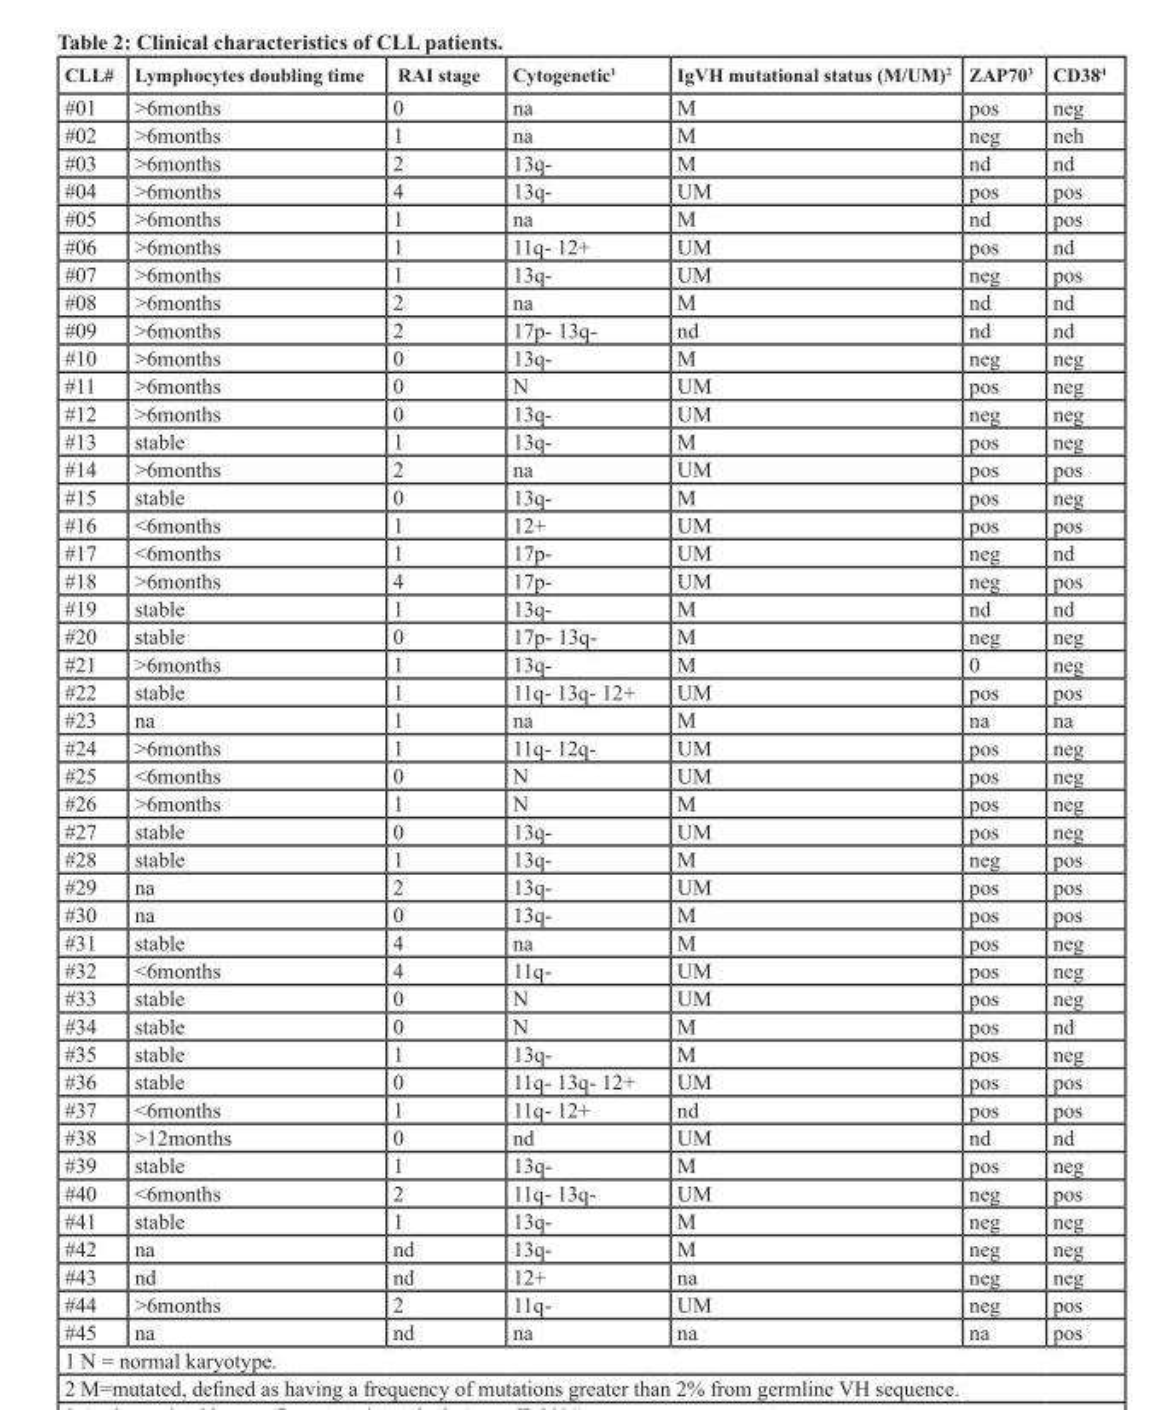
<table><thead><tr><td>CLL#</td><td>Lymphocytes doubling time</td><td>RAI stage</td><td>Cytogenetic<sup>1</sup></td><td>IgVH mutational status (M/UM)<sup>2</sup></td><td>ZAP70<sup>3</sup></td><td>CD38<sup>4</sup></td></tr></thead><tbody><tr><td>#01</td><td>&gt;6months</td><td>0</td><td>na</td><td>M</td><td>pos</td><td>neg</td></tr><tr><td>#02</td><td>&gt;6months</td><td>1</td><td>na</td><td>M</td><td>neg</td><td>neh</td></tr><tr><td>#03</td><td>&gt;6months</td><td>2</td><td>13q-</td><td>M</td><td>nd</td><td>nd</td></tr><tr><td>#04</td><td>&gt;6months</td><td>4</td><td>13q-</td><td>UM</td><td>pos</td><td>pos</td></tr><tr><td>#05</td><td>&gt;6months</td><td>1</td><td>na</td><td>M</td><td>nd</td><td>pos</td></tr><tr><td>#06</td><td>&gt;6months</td><td>1</td><td>11q- 12+</td><td>UM</td><td>pos</td><td>nd</td></tr><tr><td>#07</td><td>&gt;6months</td><td>1</td><td>13q-</td><td>UM</td><td>neg</td><td>pos</td></tr><tr><td>#08</td><td>&gt;6months</td><td>2</td><td>na</td><td>M</td><td>nd</td><td>nd</td></tr><tr><td>#09</td><td>&gt;6months</td><td>2</td><td>17p- 13q-</td><td>nd</td><td>nd</td><td>nd</td></tr><tr><td>#10</td><td>&gt;6months</td><td>0</td><td>13q-</td><td>M</td><td>neg</td><td>neg</td></tr><tr><td>#11</td><td>&gt;6months</td><td>0</td><td>N</td><td>UM</td><td>pos</td><td>neg</td></tr><tr><td>#12</td><td>&gt;6months</td><td>0</td><td>13q-</td><td>UM</td><td>neg</td><td>neg</td></tr><tr><td>#13</td><td>stable</td><td>1</td><td>13q-</td><td>M</td><td>pos</td><td>neg</td></tr><tr><td>#14</td><td>&gt;6months</td><td>2</td><td>na</td><td>UM</td><td>pos</td><td>pos</td></tr><tr><td>#15</td><td>stable</td><td>0</td><td>13q-</td><td>M</td><td>pos</td><td>neg</td></tr><tr><td>#16</td><td>&lt;6months</td><td>1</td><td>12+</td><td>UM</td><td>pos</td><td>pos</td></tr><tr><td>#17</td><td>&lt;6months</td><td>1</td><td>17p-</td><td>UM</td><td>neg</td><td>nd</td></tr><tr><td>#18</td><td>&gt;6months</td><td>4</td><td>17p-</td><td>UM</td><td>neg</td><td>pos</td></tr><tr><td>#19</td><td>stable</td><td>1</td><td>13q-</td><td>M</td><td>nd</td><td>nd</td></tr><tr><td>#20</td><td>stable</td><td>0</td><td>17p- 13q-</td><td>M</td><td>neg</td><td>neg</td></tr><tr><td>#21</td><td>&gt;6months</td><td>1</td><td>13q-</td><td>M</td><td>0</td><td>neg</td></tr><tr><td>#22</td><td>stable</td><td>1</td><td>11q- 13q- 12+</td><td>UM</td><td>pos</td><td>pos</td></tr><tr><td>#23</td><td>na</td><td>1</td><td>na</td><td>M</td><td>na</td><td>na</td></tr><tr><td>#24</td><td>&gt;6months</td><td>1</td><td>11q- 12q-</td><td>UM</td><td>pos</td><td>neg</td></tr><tr><td>#25</td><td>&lt;6months</td><td>0</td><td>N</td><td>UM</td><td>pos</td><td>neg</td></tr><tr><td>#26</td><td>&gt;6months</td><td>1</td><td>N</td><td>M</td><td>pos</td><td>neg</td></tr><tr><td>#27</td><td>stable</td><td>0</td><td>13q-</td><td>UM</td><td>pos</td><td>neg</td></tr><tr><td>#28</td><td>stable</td><td>1</td><td>13q-</td><td>M</td><td>neg</td><td>pos</td></tr><tr><td>#29</td><td>na</td><td>2</td><td>13q-</td><td>UM</td><td>pos</td><td>pos</td></tr><tr><td>#30</td><td>na</td><td>0</td><td>13q-</td><td>M</td><td>pos</td><td>pos</td></tr><tr><td>#31</td><td>stable</td><td>4</td><td>na</td><td>M</td><td>pos</td><td>neg</td></tr><tr><td>#32</td><td>&lt;6months</td><td>4</td><td>11q-</td><td>UM</td><td>pos</td><td>neg</td></tr><tr><td>#33</td><td>stable</td><td>0</td><td>N</td><td>UM</td><td>pos</td><td>neg</td></tr><tr><td>#34</td><td>stable</td><td>0</td><td>N</td><td>M</td><td>pos</td><td>nd</td></tr><tr><td>#35</td><td>stable</td><td>1</td><td>13q-</td><td>M</td><td>pos</td><td>neg</td></tr><tr><td>#36</td><td>stable</td><td>0</td><td>11q- 13q- 12+</td><td>UM</td><td>pos</td><td>pos</td></tr><tr><td>#37</td><td>&lt;6months</td><td>1</td><td>11q- 12+</td><td>nd</td><td>pos</td><td>pos</td></tr><tr><td>#38</td><td>&gt;12months</td><td>0</td><td>nd</td><td>UM</td><td>nd</td><td>nd</td></tr><tr><td>#39</td><td>stable</td><td>1</td><td>13q-</td><td>M</td><td>pos</td><td>neg</td></tr><tr><td>#40</td><td>&lt;6months</td><td>2</td><td>11q- 13q-</td><td>UM</td><td>neg</td><td>pos</td></tr><tr><td>#41</td><td>stable</td><td>1</td><td>13q-</td><td>M</td><td>neg</td><td>neg</td></tr><tr><td>#42</td><td>na</td><td>nd</td><td>13q-</td><td>M</td><td>neg</td><td>neg</td></tr><tr><td>#43</td><td>nd</td><td>nd</td><td>12+</td><td>na</td><td>neg</td><td>neg</td></tr><tr><td>#44</td><td>&gt;6months</td><td>2</td><td>11q-</td><td>UM</td><td>neg</td><td>pos</td></tr><tr><td>#45</td><td>na</td><td>nd</td><td>na</td><td>na</td><td>na</td><td>pos</td></tr></tbody></table>